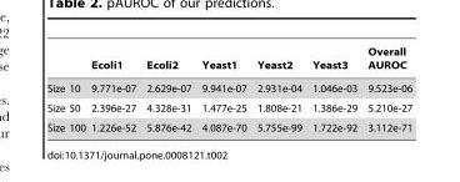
<table><thead><tr><td></td><td>Ecoli1</td><td>Ecoli2</td><td>Yeast1</td><td>Yeast2</td><td>Yeast3</td><td>Overall AUROC</td></tr></thead><tbody><tr><td>Size 10</td><td>9.771e-07</td><td>2.629e-07</td><td>9.941e-07</td><td>2.931e-04</td><td>1.046e-03</td><td>9.523e-06</td></tr><tr><td>Size 50</td><td>2.396e-27</td><td>4.328e-31</td><td>1.477e-25</td><td>1.808e-21</td><td>1.386e-29</td><td>5.210e-27</td></tr><tr><td>Size 100</td><td>1.226e-52</td><td>5.876e-42</td><td>4.087e-70</td><td>5.755e-99</td><td>1.722e-92</td><td>3.112e-71</td></tr></tbody></table>